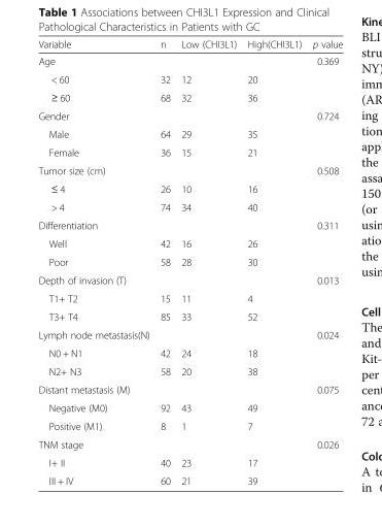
<table><thead><tr><td>Variable</td><td>n</td><td>Low (CHI3L1)</td><td>High(CHI3L1)</td><td>p value</td></tr></thead><tbody><tr><td>Age</td><td></td><td></td><td></td><td>0.369</td></tr><tr><td>&lt; 60</td><td>32</td><td>12</td><td>20</td><td></td></tr><tr><td>≥ 60</td><td>68</td><td>32</td><td>36</td><td></td></tr><tr><td>Gender</td><td></td><td></td><td></td><td>0.724</td></tr><tr><td>Male</td><td>64</td><td>29</td><td>35</td><td></td></tr><tr><td>Female</td><td>36</td><td>15</td><td>21</td><td></td></tr><tr><td>Tumor size (cm)</td><td></td><td></td><td></td><td>0.508</td></tr><tr><td>≤ 4</td><td>26</td><td>10</td><td>16</td><td></td></tr><tr><td>&gt; 4</td><td>74</td><td>34</td><td>40</td><td></td></tr><tr><td>Differentiation</td><td></td><td></td><td></td><td>0.311</td></tr><tr><td>Well</td><td>42</td><td>16</td><td>26</td><td></td></tr><tr><td>Poor</td><td>58</td><td>28</td><td>30</td><td></td></tr><tr><td>Depth of invasion (T)</td><td></td><td></td><td></td><td>0.013</td></tr><tr><td>T1+ T2</td><td>15</td><td>11</td><td>4</td><td></td></tr><tr><td>T3+ T4</td><td>85</td><td>33</td><td>52</td><td></td></tr><tr><td>Lymph node metastasis(N)</td><td></td><td></td><td></td><td>0.024</td></tr><tr><td>N0 + N1</td><td>42</td><td>24</td><td>18</td><td></td></tr><tr><td>N2+ N3</td><td>58</td><td>20</td><td>38</td><td></td></tr><tr><td>Distant metastasis (M)</td><td></td><td></td><td></td><td>0.075</td></tr><tr><td>Negative (M0)</td><td>92</td><td>43</td><td>49</td><td></td></tr><tr><td>Positive (M1)</td><td>8</td><td>1</td><td>7</td><td></td></tr><tr><td>TNM stage</td><td></td><td></td><td></td><td>0.026</td></tr><tr><td>I+ II</td><td>40</td><td>23</td><td>17</td><td></td></tr><tr><td>III + IV</td><td>60</td><td>21</td><td>39</td><td></td></tr></tbody></table>